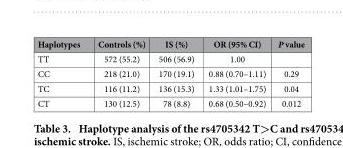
<table><thead><tr><td>Haplotypes</td><td>Controls (%)</td><td>IS (%)</td><td>OR (95% CI)</td><td>P value</td></tr></thead><tbody><tr><td>TT</td><td>572 (55.2)</td><td>506 (56.9)</td><td>1.00</td><td></td></tr><tr><td>CC</td><td>218 (21.0)</td><td>170 (19.1)</td><td>0.88 (0.70–1.11)</td><td>0.29</td></tr><tr><td>TC</td><td>116 (11.2)</td><td>136 (15.3)</td><td>1.33 (1.01–1.75)</td><td>0.04</td></tr><tr><td>CT</td><td>130 (12.5)</td><td>78 (8.8)</td><td>0.68 (0.50–0.92)</td><td>0.012</td></tr></tbody></table>